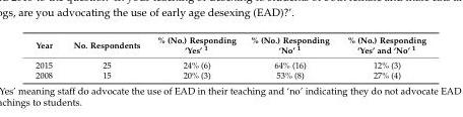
<table><thead><tr><td>Year</td><td>No. Respondents</td><td>% (No.) Responding ‘Yes’ <sup>1</sup></td><td>% (No.) Responding ‘No’ <sup>1</sup></td><td>% (No.) Responding ‘Yes’ and ‘No’ <sup>1</sup></td></tr></thead><tbody><tr><td>2015</td><td>25</td><td>24% (6)</td><td>64% (16)</td><td>12% (3)</td></tr><tr><td>2008</td><td>15</td><td>20% (3)</td><td>53% (8)</td><td>27% (4)</td></tr></tbody></table>